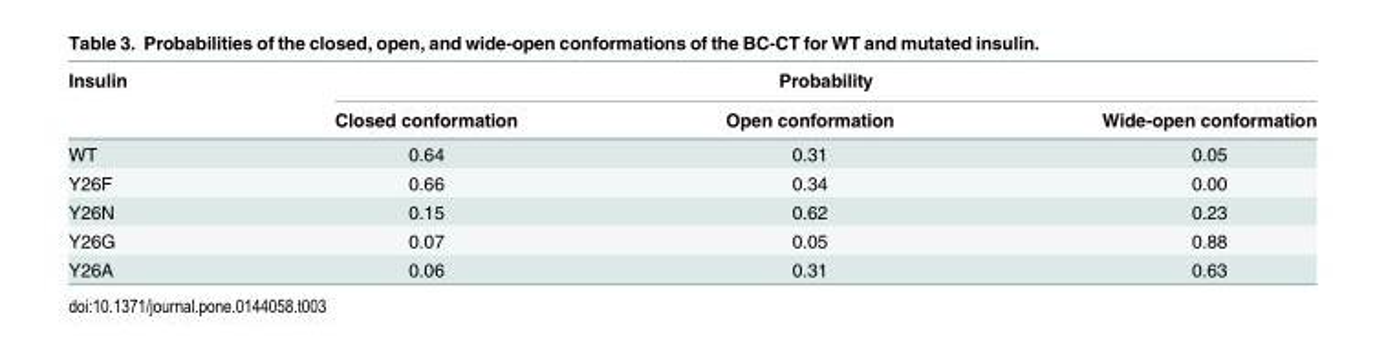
<table><thead><tr><td rowspan="2">Insulin</td><td colspan="3">Probability</td></tr><tr><td>Closed conformation</td><td>Open conformation</td><td>Wide-open conformation</td></tr></thead><tbody><tr><td>WT</td><td>0.64</td><td>0.31</td><td>0.05</td></tr><tr><td>Y26F</td><td>0.66</td><td>0.34</td><td>0.00</td></tr><tr><td>Y26N</td><td>0.15</td><td>0.62</td><td>0.23</td></tr><tr><td>Y26G</td><td>0.07</td><td>0.05</td><td>0.88</td></tr><tr><td>Y26A</td><td>0.06</td><td>0.31</td><td>0.63</td></tr></tbody></table>